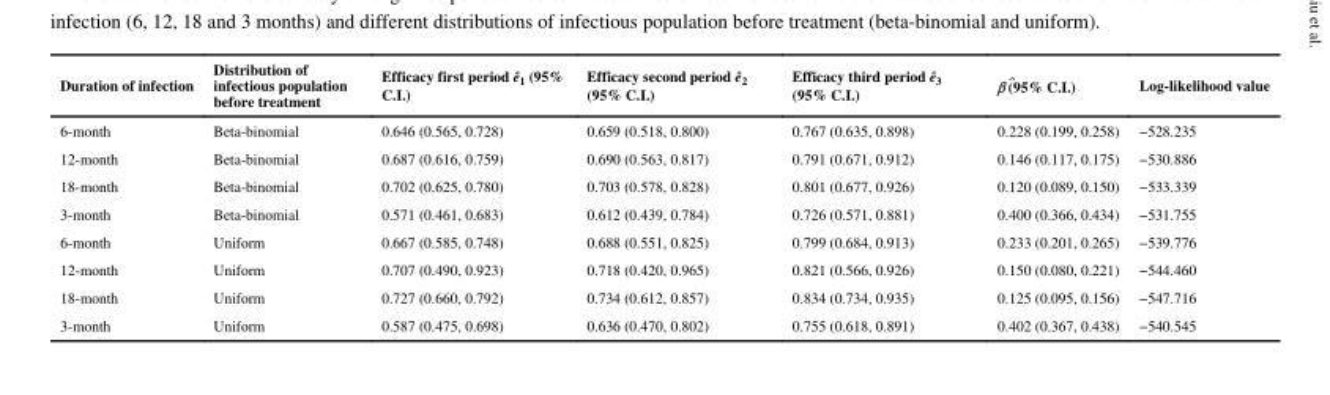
<table><thead><tr><td>Duration of infection</td><td>Distribution of infectious population before treatment</td><td>Efficacy first period ê<sub>1</sub> (95% C.I.)</td><td>Efficacy second period ê<sub>2</sub> (95% C.I.)</td><td>Efficacy third period ê<sub>3</sub> (95% C.I.)</td><td>β̂ (95% C.I.)</td><td>Log-likelihood value</td></tr></thead><tbody><tr><td>6-month</td><td>Beta-binomial</td><td>0.646 (0.565, 0.728)</td><td>0.659 (0.518, 0.800)</td><td>0.767 (0.635, 0.898)</td><td>0.228 (0.199, 0.258)</td><td>−528.235</td></tr><tr><td>12-month</td><td>Beta-binomial</td><td>0.687 (0.616, 0.759)</td><td>0.690 (0.563, 0.817)</td><td>0.791 (0.671, 0.912)</td><td>0.146 (0.117, 0.175)</td><td>−530.886</td></tr><tr><td>18-month</td><td>Beta-binomial</td><td>0.702 (0.625, 0.780)</td><td>0.703 (0.578, 0.828)</td><td>0.801 (0.677, 0.926)</td><td>0.120 (0.089, 0.150)</td><td>−533.339</td></tr><tr><td>3-month</td><td>Beta-binomial</td><td>0.571 (0.461, 0.683)</td><td>0.612 (0.439, 0.784)</td><td>0.726 (0.571, 0.881)</td><td>0.400 (0.366, 0.434)</td><td>−531.755</td></tr><tr><td>6-month</td><td>Uniform</td><td>0.667 (0.585, 0.748)</td><td>0.688 (0.551, 0.825)</td><td>0.799 (0.684, 0.913)</td><td>0.233 (0.201, 0.265)</td><td>−539.776</td></tr><tr><td>12-month</td><td>Uniform</td><td>0.707 (0.490, 0.923)</td><td>0.718 (0.420, 0.965)</td><td>0.821 (0.566, 0.926)</td><td>0.150 (0.080, 0.221)</td><td>−544.460</td></tr><tr><td>18-month</td><td>Uniform</td><td>0.727 (0.660, 0.792)</td><td>0.734 (0.612, 0.857)</td><td>0.834 (0.734, 0.935)</td><td>0.125 (0.095, 0.156)</td><td>−547.716</td></tr><tr><td>3-month</td><td>Uniform</td><td>0.587 (0.475, 0.698)</td><td>0.636 (0.470, 0.802)</td><td>0.755 (0.618, 0.891)</td><td>0.402 (0.367, 0.438)</td><td>−540.545</td></tr></tbody></table>